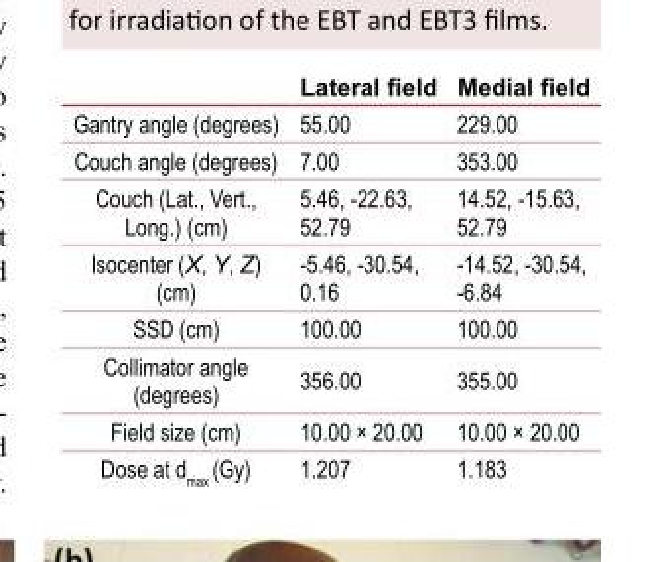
<table><thead><tr><td></td><td>Lateral field</td><td>Medial field</td></tr></thead><tbody><tr><td>Gantry angle (degrees)</td><td>55.00</td><td>229.00</td></tr><tr><td>Couch angle (degrees)</td><td>7.00</td><td>353.00</td></tr><tr><td>Couch (Lat., Vert., Long.) (cm)</td><td>5.46, -22.63, 52.79</td><td>14.52, -15.63, 52.79</td></tr><tr><td>Isocenter (X, Y, Z) (cm)</td><td>-5.46, -30.54, 0.16</td><td>-14.52, -30.54, -6.84</td></tr><tr><td>SSD (cm)</td><td>100.00</td><td>100.00</td></tr><tr><td>Collimator angle (degrees)</td><td>356.00</td><td>355.00</td></tr><tr><td>Field size (cm)</td><td>10.00 × 20.00</td><td>10.00 × 20.00</td></tr><tr><td>Dose at d<sub>max</sub> (Gy)</td><td>1.207</td><td>1.183</td></tr></tbody></table>